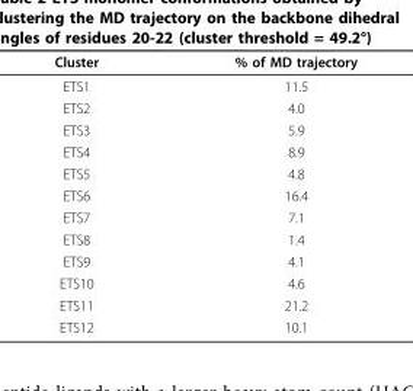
<table><thead><tr><td>Cluster</td><td>% of MD trajectory</td></tr></thead><tbody><tr><td>ETS1</td><td>11.5</td></tr><tr><td>ETS2</td><td>4.0</td></tr><tr><td>ETS3</td><td>5.9</td></tr><tr><td>ETS4</td><td>8.9</td></tr><tr><td>ETS5</td><td>4.8</td></tr><tr><td>ETS6</td><td>16.4</td></tr><tr><td>ETS7</td><td>7.1</td></tr><tr><td>ETS8</td><td>1.4</td></tr><tr><td>ETS9</td><td>4.1</td></tr><tr><td>ETS10</td><td>4.6</td></tr><tr><td>ETS11</td><td>21.2</td></tr><tr><td>ETS12</td><td>10.1</td></tr></tbody></table>